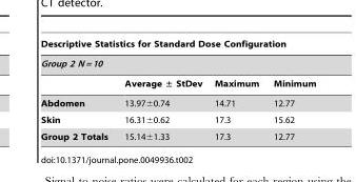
<table><thead><tr><td rowspan="2" colspan="4">Descriptive Statistics for Standard Dose Configuration Group 2 N = 10</td></tr><tr></tr><tr><td></td><td>Average ± StDev</td><td>Maximum</td><td>Minimum</td></tr></thead><tbody><tr><td>Abdomen</td><td>13.97±0.74</td><td>14.71</td><td>12.77</td></tr><tr><td>Skin</td><td>16.31±0.62</td><td>17.3</td><td>15.62</td></tr><tr><td>Group 2 Totals</td><td>15.14±1.33</td><td>17.3</td><td>12.77</td></tr></tbody></table>